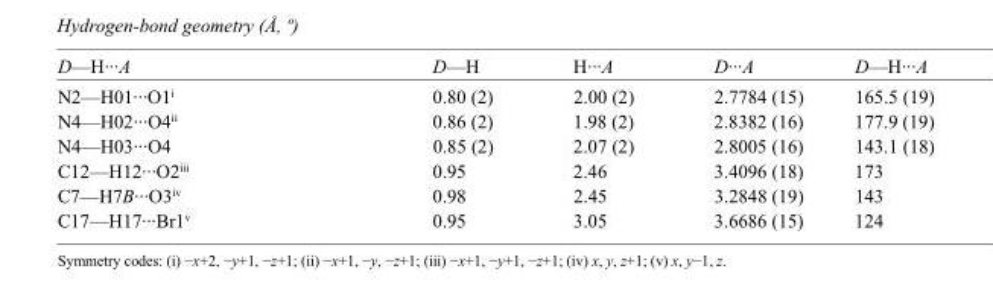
<table><tbody><tr><td>D—H···A</td><td>D—H</td><td>H···A</td><td>D···A</td><td>D—H···A</td></tr><tr><td>N2—H01···O1<sup>i</sup></td><td>0.80 (2)</td><td>2.00 (2)</td><td>2.7784 (15)</td><td>165.5 (19)</td></tr><tr><td>N4—H02···O4<sup>ii</sup></td><td>0.86 (2)</td><td>1.98 (2)</td><td>2.8382 (16)</td><td>177.9 (19)</td></tr><tr><td>N4—H03···O4</td><td>0.85 (2)</td><td>2.07 (2)</td><td>2.8005 (16)</td><td>143.1 (18)</td></tr><tr><td>C12—H12···O2<sup>iii</sup></td><td>0.95</td><td>2.46</td><td>3.4096 (18)</td><td>173</td></tr><tr><td>C7—H7B···O3<sup>iv</sup></td><td>0.98</td><td>2.45</td><td>3.2848 (19)</td><td>143</td></tr><tr><td>C17—H17···Br1<sup>v</sup></td><td>0.95</td><td>3.05</td><td>3.6686 (15)</td><td>124</td></tr></tbody></table>